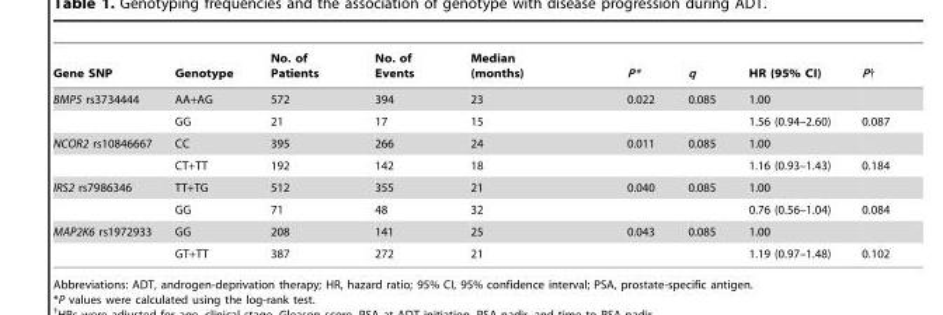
<table><thead><tr><td>Gene SNP</td><td>Genotype</td><td>No. of Patients</td><td>No. of Events</td><td>Median (months)</td><td>P*</td><td>q</td><td>HR (95% CI)</td><td>P†</td></tr></thead><tbody><tr><td rowspan="2">BMP5 rs3734444</td><td>AA+AG</td><td>572</td><td>394</td><td>23</td><td>0.022</td><td>0.085</td><td>1.00</td><td></td></tr><tr><td>GG</td><td>21</td><td>17</td><td>15</td><td></td><td></td><td>1.56 (0.94–2.60)</td><td>0.087</td></tr><tr><td rowspan="2">NCOR2 rs10846667</td><td>CC</td><td>395</td><td>266</td><td>24</td><td>0.011</td><td>0.085</td><td>1.00</td><td></td></tr><tr><td>CT+TT</td><td>192</td><td>142</td><td>18</td><td></td><td></td><td>1.16 (0.93–1.43)</td><td>0.184</td></tr><tr><td rowspan="2">IRS2 rs7986346</td><td>TT+TG</td><td>512</td><td>355</td><td>21</td><td>0.040</td><td>0.085</td><td>1.00</td><td></td></tr><tr><td>GG</td><td>71</td><td>48</td><td>32</td><td></td><td></td><td>0.76 (0.56–1.04)</td><td>0.084</td></tr><tr><td rowspan="2">MAP2K6 rs1972933</td><td>GG</td><td>208</td><td>141</td><td>25</td><td>0.043</td><td>0.085</td><td>1.00</td><td></td></tr><tr><td>GT+TT</td><td>387</td><td>272</td><td>21</td><td></td><td></td><td>1.19 (0.97–1.48)</td><td>0.102</td></tr></tbody></table>